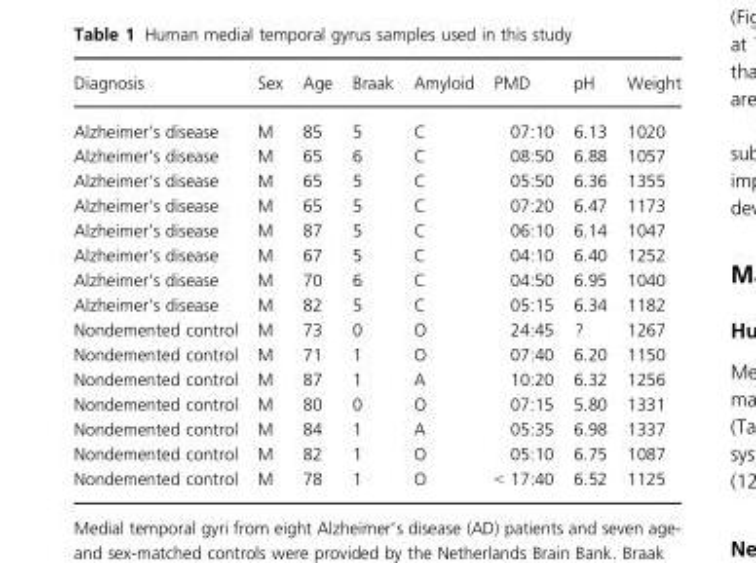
<table><thead><tr><td>Diagnosis</td><td>Sex</td><td>Age</td><td>Braak</td><td>Amyloid</td><td>PMD</td><td>pH</td><td>Weight</td></tr></thead><tbody><tr><td>Alzheimer’s disease</td><td>M</td><td>85</td><td>5</td><td>C</td><td>07:10</td><td>6.13</td><td>1020</td></tr><tr><td>Alzheimer’s disease</td><td>M</td><td>65</td><td>6</td><td>C</td><td>08:50</td><td>6.88</td><td>1057</td></tr><tr><td>Alzheimer’s disease</td><td>M</td><td>65</td><td>5</td><td>C</td><td>05:50</td><td>6.36</td><td>1355</td></tr><tr><td>Alzheimer’s disease</td><td>M</td><td>65</td><td>5</td><td>C</td><td>07:20</td><td>6.47</td><td>1173</td></tr><tr><td>Alzheimer’s disease</td><td>M</td><td>87</td><td>5</td><td>C</td><td>06:10</td><td>6.14</td><td>1047</td></tr><tr><td>Alzheimer’s disease</td><td>M</td><td>67</td><td>5</td><td>C</td><td>04:10</td><td>6.40</td><td>1252</td></tr><tr><td>Alzheimer’s disease</td><td>M</td><td>70</td><td>6</td><td>C</td><td>04:50</td><td>6.95</td><td>1040</td></tr><tr><td>Alzheimer’s disease</td><td>M</td><td>82</td><td>5</td><td>C</td><td>05:15</td><td>6.34</td><td>1182</td></tr><tr><td>Nondemented control</td><td>M</td><td>73</td><td>0</td><td>O</td><td>24:45</td><td>?</td><td>1267</td></tr><tr><td>Nondemented control</td><td>M</td><td>71</td><td>1</td><td>O</td><td>07:40</td><td>6.20</td><td>1150</td></tr><tr><td>Nondemented control</td><td>M</td><td>87</td><td>1</td><td>A</td><td>10:20</td><td>6.32</td><td>1256</td></tr><tr><td>Nondemented control</td><td>M</td><td>80</td><td>0</td><td>O</td><td>07:15</td><td>5.80</td><td>1331</td></tr><tr><td>Nondemented control</td><td>M</td><td>84</td><td>1</td><td>A</td><td>05:35</td><td>6.98</td><td>1337</td></tr><tr><td>Nondemented control</td><td>M</td><td>82</td><td>1</td><td>O</td><td>05:10</td><td>6.75</td><td>1087</td></tr><tr><td>Nondemented control</td><td>M</td><td>78</td><td>1</td><td>O</td><td>&lt; 17:40</td><td>6.52</td><td>1125</td></tr></tbody></table>